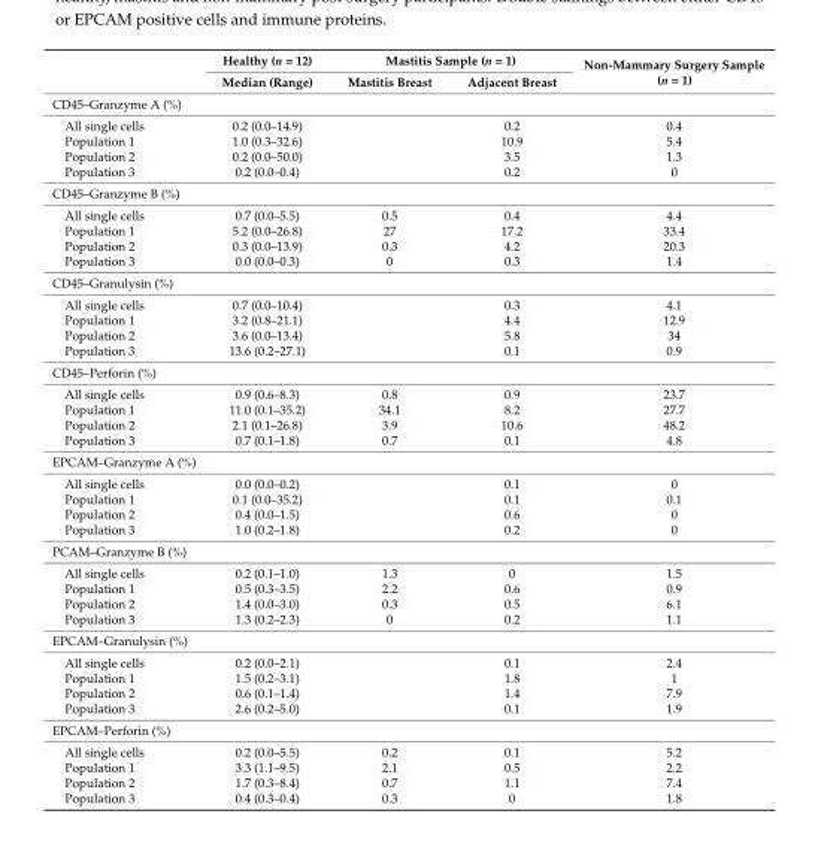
<table><thead><tr><td rowspan="2"></td><td rowspan="2">Healthy (n = 12) Median (Range)</td><td colspan="2">Mastitis Sample (n = 1)</td><td rowspan="2">Non-Mammary Surgery Sample (n = 1)</td></tr><tr><td>Mastitis Breast</td><td>Adjacent Breast</td></tr></thead><tbody><tr><td colspan="5">CD45–Granzyme A (%)</td></tr><tr><td>All single cells</td><td>0.2 (0.0–14.9)</td><td></td><td>0.2</td><td>0.4</td></tr><tr><td>Population 1</td><td>1.0 (0.3–32.6)</td><td></td><td>10.9</td><td>5.4</td></tr><tr><td>Population 2</td><td>0.2 (0.0–50.0)</td><td></td><td>3.5</td><td>1.3</td></tr><tr><td>Population 3</td><td>0.2 (0.0–0.4)</td><td></td><td>0.2</td><td>0</td></tr><tr><td colspan="5">CD45–Granzyme B (%)</td></tr><tr><td>All single cells</td><td>0.7 (0.0–5.5)</td><td>0.5</td><td>0.4</td><td>4.4</td></tr><tr><td>Population 1</td><td>5.2 (0.0–26.8)</td><td>27</td><td>17.2</td><td>33.4</td></tr><tr><td>Population 2</td><td>0.3 (0.0–13.9)</td><td>0.3</td><td>4.2</td><td>20.3</td></tr><tr><td>Population 3</td><td>0.0 (0.0–0.3)</td><td>0</td><td>0.3</td><td>1.4</td></tr><tr><td colspan="5">CD45–Granulysin (%)</td></tr><tr><td>All single cells</td><td>0.7 (0.0–10.4)</td><td></td><td>0.3</td><td>4.1</td></tr><tr><td>Population 1</td><td>3.2 (0.8–21.1)</td><td></td><td>4.4</td><td>12.9</td></tr><tr><td>Population 2</td><td>3.6 (0.0–13.4)</td><td></td><td>5.8</td><td>34</td></tr><tr><td>Population 3</td><td>13.6 (0.2–27.1)</td><td></td><td>0.1</td><td>0.9</td></tr><tr><td colspan="5">CD45–Perforin (%)</td></tr><tr><td>All single cells</td><td>0.9 (0.6–8.3)</td><td>0.8</td><td>0.9</td><td>23.7</td></tr><tr><td>Population 1</td><td>11.0 (0.1–35.2)</td><td>34.1</td><td>8.2</td><td>27.7</td></tr><tr><td>Population 2</td><td>2.1 (0.1–26.8)</td><td>3.9</td><td>10.6</td><td>48.2</td></tr><tr><td>Population 3</td><td>0.7 (0.1–1.8)</td><td>0.7</td><td>0.1</td><td>4.8</td></tr><tr><td colspan="5">EPCAM–Granzyme A (%)</td></tr><tr><td>All single cells</td><td>0.0 (0.0–0.2)</td><td></td><td>0.1</td><td>0</td></tr><tr><td>Population 1</td><td>0.1 (0.0–35.2)</td><td></td><td>0.1</td><td>0.1</td></tr><tr><td>Population 2</td><td>0.4 (0.0–1.5)</td><td></td><td>0.6</td><td>0</td></tr><tr><td>Population 3</td><td>1.0 (0.2–1.8)</td><td></td><td>0.2</td><td>0</td></tr><tr><td colspan="5">PCAM–Granzyme B (%)</td></tr><tr><td>All single cells</td><td>0.2 (0.1–1.0)</td><td>1.3</td><td>0</td><td>1.5</td></tr><tr><td>Population 1</td><td>0.5 (0.3–3.5)</td><td>2.2</td><td>0.6</td><td>0.9</td></tr><tr><td>Population 2</td><td>1.4 (0.0–3.0)</td><td>0.3</td><td>0.5</td><td>6.1</td></tr><tr><td>Population 3</td><td>1.3 (0.2–2.3)</td><td>0</td><td>0.2</td><td>1.1</td></tr><tr><td colspan="5">EPCAM–Granulysin (%)</td></tr><tr><td>All single cells</td><td>0.2 (0.0–2.1)</td><td></td><td>0.1</td><td>2.4</td></tr><tr><td>Population 1</td><td>1.5 (0.2–3.1)</td><td></td><td>1.8</td><td>1</td></tr><tr><td>Population 2</td><td>0.6 (0.1–1.4)</td><td></td><td>1.4</td><td>7.9</td></tr><tr><td>Population 3</td><td>2.6 (0.2–5.0)</td><td></td><td>0.1</td><td>1.9</td></tr><tr><td colspan="5">EPCAM–Perforin (%)</td></tr><tr><td>All single cells</td><td>0.2 (0.0–5.5)</td><td>0.2</td><td>0.1</td><td>5.2</td></tr><tr><td>Population 1</td><td>3.3 (1.1–9.5)</td><td>2.1</td><td>0.5</td><td>2.2</td></tr><tr><td>Population 2</td><td>1.7 (0.3–8.4)</td><td>0.7</td><td>1.1</td><td>7.4</td></tr><tr><td>Population 3</td><td>0.4 (0.3–0.4)</td><td>0.3</td><td>0</td><td>1.8</td></tr></tbody></table>